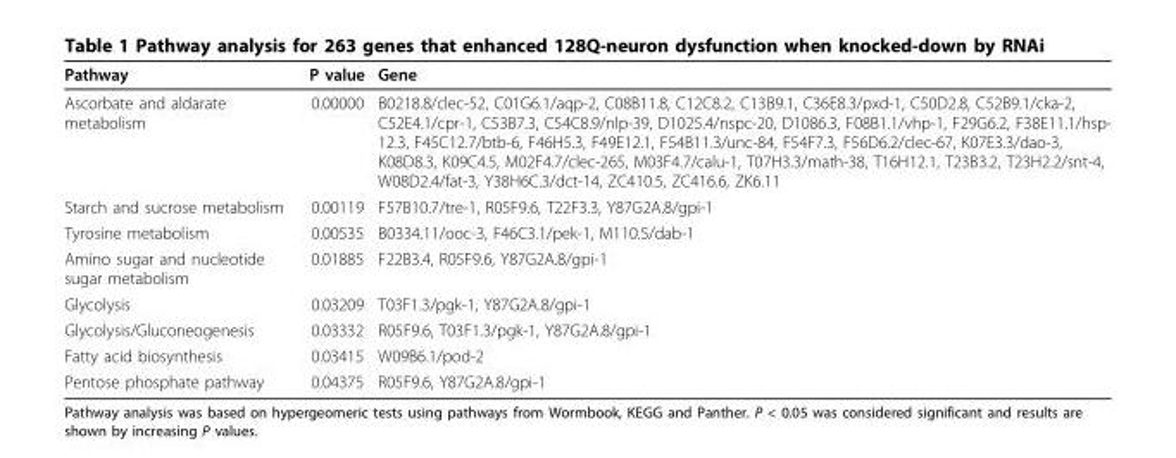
<table><thead><tr><td>Pathway</td><td>P value</td><td>Gene</td></tr></thead><tbody><tr><td>Ascorbate and aldarate metabolism</td><td>0.00000</td><td>B0218.8/clec-52, C01G6.1/aqp-2, C08B11.8, C12C8.2, C13B9.1, C36E8.3/pxd-1, C50D2.8, C52B9.1/cka-2, C52E4.1/cpr-1, C53B7.3, C54C8.9/nlp-39, D1025.4/nspc-20, D1086.3, F08B1.1/vhp-1, F29G6.2, F38E11.1/hsp- 12.3, F45C12.7/btb-6, F46H5.3, F49E12.1, F54B11.3/unc-84, F54F7.3, F56D6.2/clec-67, K07E3.3/dao-3, K08D8.3, K09C4.5, M02F4.7/clec-265, M03F4.7/calu-1, T07H3.3/math-38, T16H12.1, T23B3.2, T23H2.2/snt-4, W08D2.4/fat-3, Y38H6C.3/dct-14, ZC410.5, ZC416.6, ZK6.11</td></tr><tr><td>Starch and sucrose metabolism</td><td>0.00119</td><td>F57B10.7/tre-1, R05F9.6, T22F3.3, Y87G2A.8/gpi-1</td></tr><tr><td>Tyrosine metabolism</td><td>0.00535</td><td>B0334.11/ooc-3, F46C3.1/pek-1, M110.5/dab-1</td></tr><tr><td>Amino sugar and nucleotide sugar metabolism</td><td>0.01885</td><td>F22B3.4, R05F9.6, Y87G2A.8/gpi-1</td></tr><tr><td>Glycolysis</td><td>0.03209</td><td>T03F1.3/pgk-1, Y87G2A.8/gpi-1</td></tr><tr><td>Glycolysis/Gluconeogenesis</td><td>0.03332</td><td>R05F9.6, T03F1.3/pgk-1, Y87G2A.8/gpi-1</td></tr><tr><td>Fatty acid biosynthesis</td><td>0.03415</td><td>W09B6.1/pod-2</td></tr><tr><td>Pentose phosphate pathway</td><td>0.04375</td><td>R05F9.6, Y87G2A.8/gpi-1</td></tr></tbody></table>